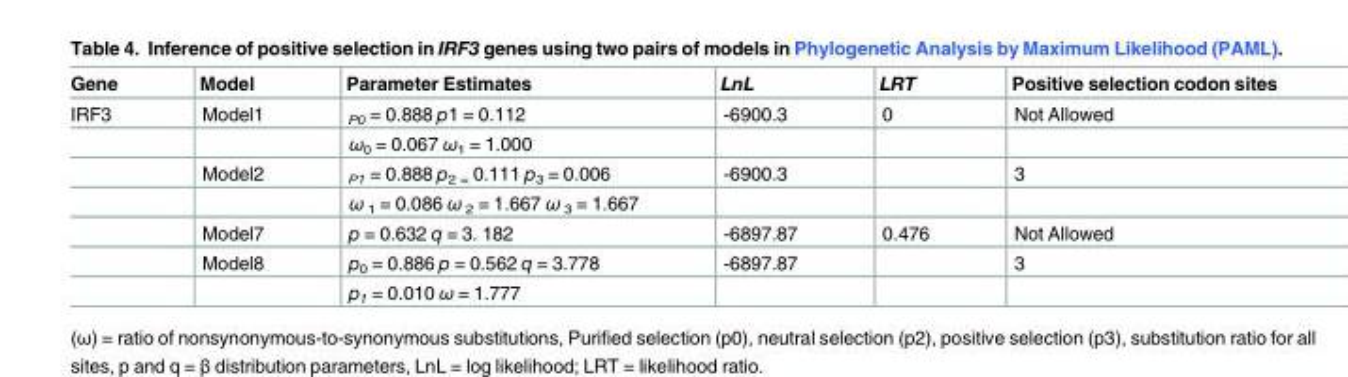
<table><thead><tr><td>Gene</td><td>Model</td><td>Parameter Estimates</td><td>LnL</td><td>LRT</td><td>Positive selection codon sites</td></tr></thead><tbody><tr><td rowspan="7">IRF3</td><td>Model1</td><td><sub>P0</sub> = 0.888 p1 = 0.112</td><td>-6900.3</td><td>0</td><td>Not Allowed</td></tr><tr><td></td><td>ω<sub>0</sub> = 0.067 ω<sub>1</sub> = 1.000</td><td></td><td></td><td></td></tr><tr><td>Model2</td><td><sub>P1</sub> = 0.888 p<sub>2 =</sub> 0.111 p<sub>3</sub> = 0.006</td><td>-6900.3</td><td></td><td>3</td></tr><tr><td></td><td>ω <sub>1</sub> = 0.086 ω <sub>2</sub> = 1.667 ω <sub>3</sub> = 1.667</td><td></td><td></td><td></td></tr><tr><td>Model7</td><td>p = 0.632 q = 3. 182</td><td>-6897.87</td><td>0.476</td><td>Not Allowed</td></tr><tr><td>Model8</td><td>p<sub>0</sub> = 0.886 p = 0.562 q = 3.778</td><td>-6897.87</td><td></td><td>3</td></tr><tr><td></td><td>p<sub>1</sub> = 0.010 ω = 1.777</td><td></td><td></td><td></td></tr></tbody></table>